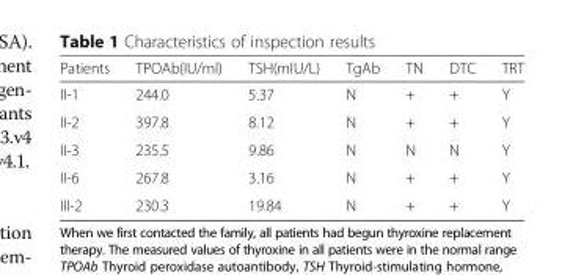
<table><thead><tr><td>Patients</td><td>TPOAb(IU/ml)</td><td>TSH(mIU/L)</td><td>TgAb</td><td>TN</td><td>DTC</td><td>TRT</td></tr></thead><tbody><tr><td>II-1</td><td>244.0</td><td>5.37</td><td>N</td><td>+</td><td>+</td><td>Y</td></tr><tr><td>II-2</td><td>397.8</td><td>8.12</td><td>N</td><td>+</td><td>+</td><td>Y</td></tr><tr><td>II-3</td><td>235.5</td><td>9.86</td><td>N</td><td>N</td><td>N</td><td>Y</td></tr><tr><td>II-6</td><td>267.8</td><td>3.16</td><td>N</td><td>+</td><td>+</td><td>Y</td></tr><tr><td>III-2</td><td>230.3</td><td>19.84</td><td>N</td><td>+</td><td>+</td><td>Y</td></tr></tbody></table>